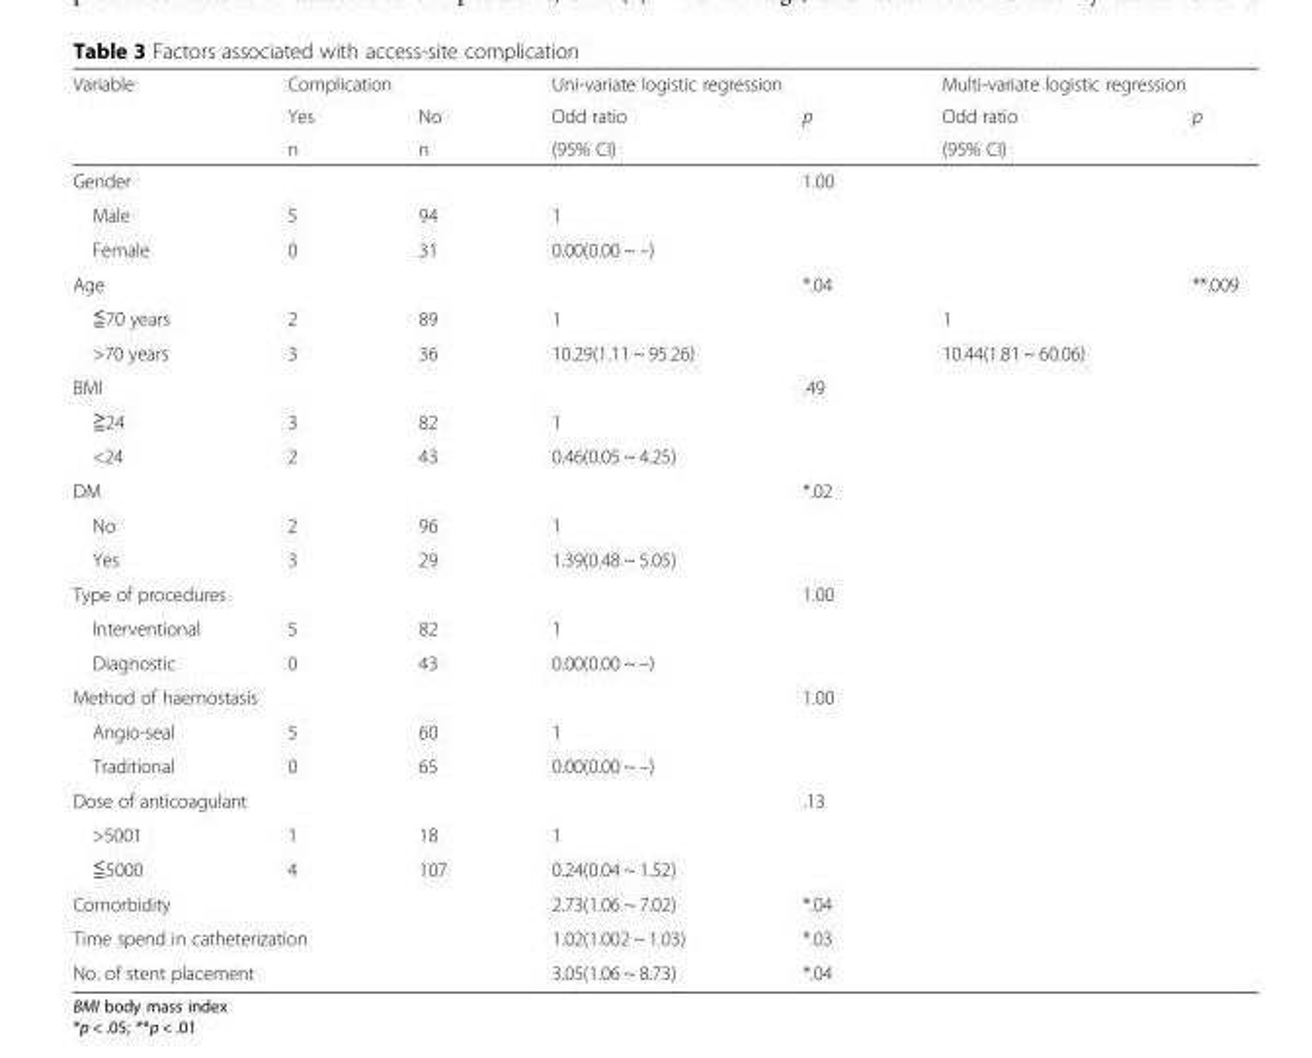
<table><thead><tr><td rowspan="3">Variable</td><td colspan="2">Complication</td><td colspan="2">Uni-variate logistic regression</td><td colspan="2">Multi-variate logistic regression</td></tr><tr><td rowspan="2">Yes n</td><td rowspan="2">No n</td><td rowspan="2">Odd ratio (95% CI)</td><td rowspan="2">p</td><td rowspan="2">Odd ratio (95% CI)</td><td rowspan="2">p</td></tr><tr></tr></thead><tbody><tr><td>Gender</td><td></td><td></td><td></td><td>1.00</td><td></td><td></td></tr><tr><td>Male</td><td>5</td><td>94</td><td>1</td><td></td><td></td><td></td></tr><tr><td>Female</td><td>0</td><td>31</td><td>0.00(0.00 ~ –)</td><td></td><td></td><td></td></tr><tr><td>Age</td><td></td><td></td><td></td><td>*.04</td><td></td><td>**.009</td></tr><tr><td>≦70 years</td><td>2</td><td>89</td><td>1</td><td></td><td>1</td><td></td></tr><tr><td>&gt;70 years</td><td>3</td><td>36</td><td>10.29(1.11 ~ 95.26)</td><td></td><td>10.44(1.81 ~ 60.06)</td><td></td></tr><tr><td>BMI</td><td></td><td></td><td></td><td>.49</td><td></td><td></td></tr><tr><td>≧24</td><td>3</td><td>82</td><td>1</td><td></td><td></td><td></td></tr><tr><td>&lt;24</td><td>2</td><td>43</td><td>0.46(0.05 ~ 4.25)</td><td></td><td></td><td></td></tr><tr><td>DM</td><td></td><td></td><td></td><td>*.02</td><td></td><td></td></tr><tr><td>No</td><td>2</td><td>96</td><td>1</td><td></td><td></td><td></td></tr><tr><td>Yes</td><td>3</td><td>29</td><td>1.39(0.48 ~ 5.05)</td><td></td><td></td><td></td></tr><tr><td colspan="4">Type of procedures</td><td>1.00</td><td></td><td></td></tr><tr><td>Interventional</td><td>5</td><td>82</td><td>1</td><td></td><td></td><td></td></tr><tr><td>Diagnostic</td><td>0</td><td>43</td><td>0.00(0.00 ~ –)</td><td></td><td></td><td></td></tr><tr><td colspan="4">Method of haemostasis</td><td colspan="3">1.00</td></tr><tr><td>Angio-seal</td><td>5</td><td>60</td><td>1</td><td></td><td></td><td></td></tr><tr><td>Traditional</td><td>0</td><td>65</td><td>0.00(0.00 ~ –)</td><td></td><td></td><td></td></tr><tr><td colspan="4">Dose of anticoagulant</td><td colspan="3">.13</td></tr><tr><td>&gt;5001</td><td>1</td><td>18</td><td>1</td><td></td><td></td><td></td></tr><tr><td>≦5000</td><td>4</td><td>107</td><td>0.24(0.04 ~ 1.52)</td><td></td><td></td><td></td></tr><tr><td>Comorbidity</td><td></td><td></td><td>2.73(1.06 ~ 7.02)</td><td>*.04</td><td></td><td></td></tr><tr><td colspan="3">Time spend in catheterization</td><td>1.02(1.002 ~ 1.03)</td><td>*.03</td><td></td><td></td></tr><tr><td colspan="3">No. of stent placement</td><td>3.05(1.06 ~ 8.73)</td><td>*.04</td><td></td><td></td></tr></tbody></table>